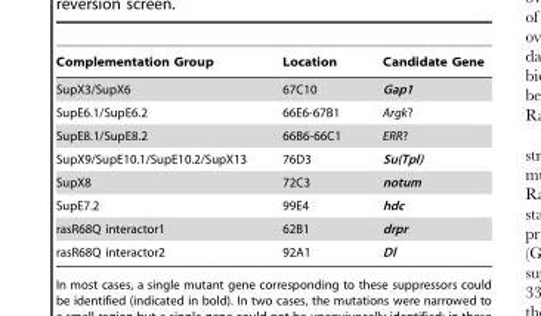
<table><thead><tr><td>Complementation Group</td><td>Location</td><td>Candidate Gene</td></tr></thead><tbody><tr><td>SupX3/SupX6</td><td>67C10</td><td>Gap1</td></tr><tr><td>SupE6.1/SupE6.2</td><td>66E6-67B1</td><td>Argk?</td></tr><tr><td>SupE8.1/SupE8.2</td><td>66B6-66C1</td><td>ERR?</td></tr><tr><td>SupX9/SupE10.1/SupE10.2/SupX13</td><td>76D3</td><td>Su(Tpl)</td></tr><tr><td>SupX8</td><td>72C3</td><td>notum</td></tr><tr><td>SupE7.2</td><td>99E4</td><td>hdc</td></tr><tr><td>rasR68Q interactor1</td><td>62B1</td><td>drpr</td></tr><tr><td>rasR68Q interactor2</td><td>92A1</td><td>Dl</td></tr></tbody></table>